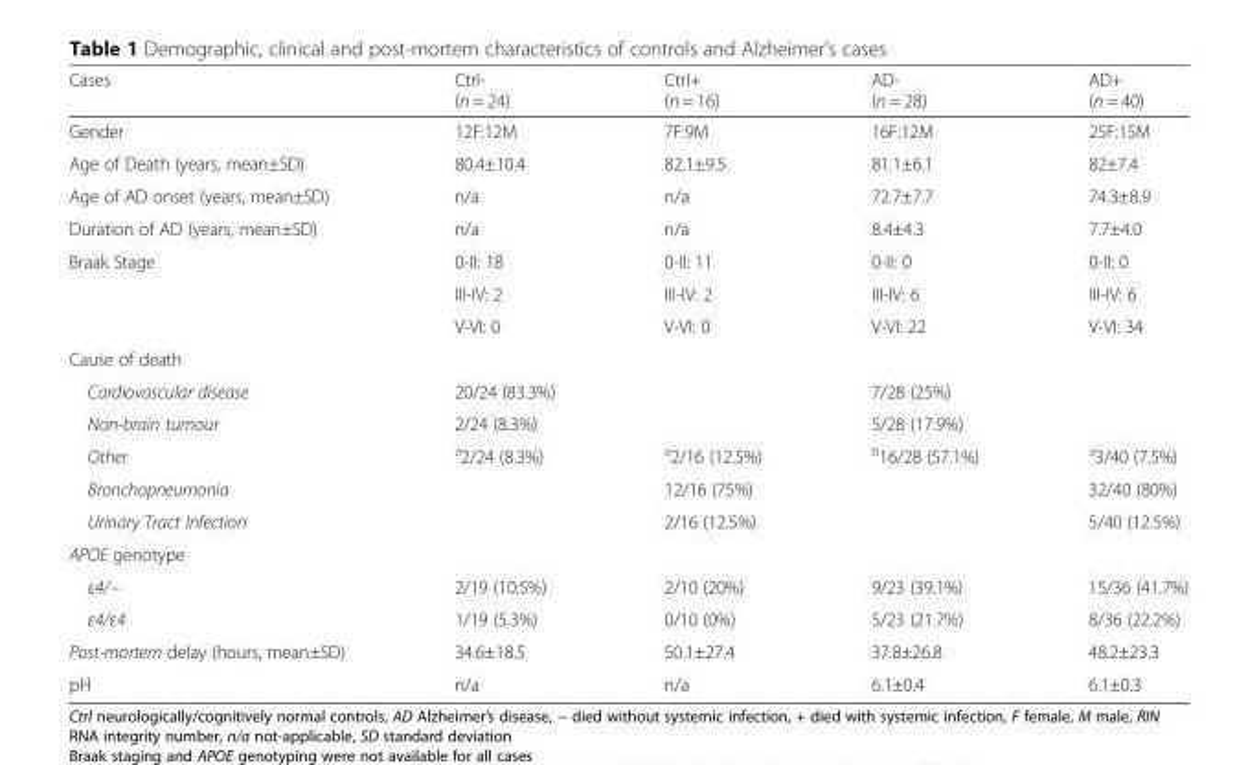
<table><thead><tr><td>Cases</td><td>Ctrl- (n = 24)</td><td>Ctrl+ (n = 16)</td><td>AD- (n = 28)</td><td>AD+ (n = 40)</td></tr></thead><tbody><tr><td>Gender</td><td>12F:12M</td><td>7F:9M</td><td>16F:12M</td><td>25F:15M</td></tr><tr><td>Age of Death (years, mean±SD)</td><td>80.4±10.4</td><td>82.1±9.5</td><td>81.1±6.1</td><td>82±7.4</td></tr><tr><td>Age of AD onset (years, mean±SD)</td><td>n/a</td><td>n/a</td><td>72.7±7.7</td><td>74.3±8.9</td></tr><tr><td>Duration of AD (years, mean±SD)</td><td>n/a</td><td>n/a</td><td>8.4±4.3</td><td>7.7±4.0</td></tr><tr><td rowspan="3">Braak Stage</td><td>0-II: 18</td><td>0-II: 11</td><td>0-II: 0</td><td>0-II: 0</td></tr><tr><td>III-IV: 2</td><td>III-IV: 2</td><td>III-IV: 6</td><td>III-IV: 6</td></tr><tr><td>V-VI: 0</td><td>V-VI: 0</td><td>V-VI: 22</td><td>V-VI: 34</td></tr><tr><td colspan="5">Cause of death</td></tr><tr><td>Cardiovascular disease</td><td>20/24 (83.3%)</td><td></td><td>7/28 (25%)</td><td></td></tr><tr><td>Non-brain tumour</td><td>2/24 (8.3%)</td><td></td><td>5/28 (17.9%)</td><td></td></tr><tr><td>Other</td><td><sup>a</sup>2/24 (8.3%)</td><td><sup>a</sup>2/16 (12.5%)</td><td><sup>b</sup>16/28 (57.1%)</td><td><sup>a</sup>3/40 (7.5%)</td></tr><tr><td>Bronchopneumonia</td><td></td><td>12/16 (75%)</td><td></td><td>32/40 (80%)</td></tr><tr><td>Urinary Tract Infection</td><td></td><td>2/16 (12.5%)</td><td></td><td>5/40 (12.5%)</td></tr><tr><td colspan="5">APOE genotype</td></tr><tr><td>ε4/−</td><td>2/19 (10.5%)</td><td>2/10 (20%)</td><td>9/23 (39.1%)</td><td>15/36 (41.7%)</td></tr><tr><td>ε4/ε4</td><td>1/19 (5.3%)</td><td>0/10 (0%)</td><td>5/23 (21.7%)</td><td>8/36 (22.2%)</td></tr><tr><td>Post-mortem delay (hours, mean±SD)</td><td>34.6±18.5</td><td>50.1±27.4</td><td>37.8±26.8</td><td>48.2±23.3</td></tr><tr><td>pH</td><td>n/a</td><td>n/a</td><td>6.1±0.4</td><td>6.1±0.3</td></tr></tbody></table>